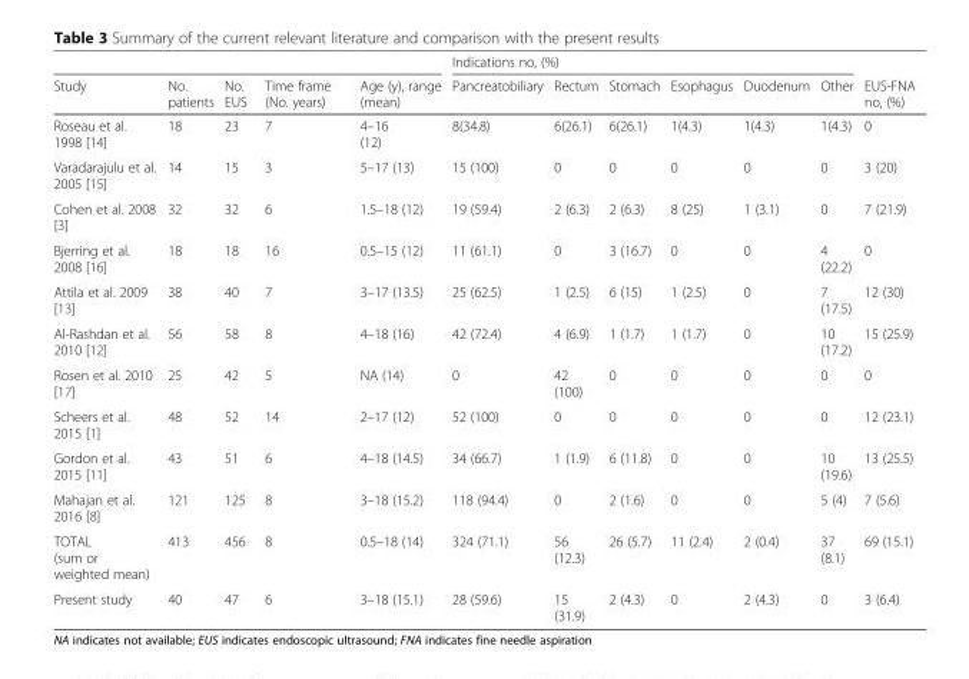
<table><thead><tr><td rowspan="2">Study</td><td rowspan="2">No. patients</td><td rowspan="2">No. EUS</td><td rowspan="2">Time frame (No. years)</td><td rowspan="2">Age (y), range (mean)</td><td colspan="6">Indications no, (%)</td><td rowspan="2">EUS-FNA no, (%)</td></tr><tr><td>Pancreatobiliary</td><td>Rectum</td><td>Stomach</td><td>Esophagus</td><td>Duodenum</td><td>Other</td></tr></thead><tbody><tr><td>Roseau et al. 1998 [14]</td><td>18</td><td>23</td><td>7</td><td>4–16 (12)</td><td>8(34.8)</td><td>6(26.1)</td><td>6(26.1)</td><td>1(4.3)</td><td>1(4.3)</td><td>1(4.3)</td><td>0</td></tr><tr><td>Varadarajulu et al. 2005 [15]</td><td>14</td><td>15</td><td>3</td><td>5–17 (13)</td><td>15 (100)</td><td>0</td><td>0</td><td>0</td><td>0</td><td>0</td><td>3 (20)</td></tr><tr><td>Cohen et al. 2008 [3]</td><td>32</td><td>32</td><td>6</td><td>1.5–18 (12)</td><td>19 (59.4)</td><td>2 (6.3)</td><td>2 (6.3)</td><td>8 (25)</td><td>1 (3.1)</td><td>0</td><td>7 (21.9)</td></tr><tr><td>Bjerring et al. 2008 [16]</td><td>18</td><td>18</td><td>16</td><td>0.5–15 (12)</td><td>11 (61.1)</td><td>0</td><td>3 (16.7)</td><td>0</td><td>0</td><td>4 (22.2)</td><td>0</td></tr><tr><td>Attila et al. 2009 [13]</td><td>38</td><td>40</td><td>7</td><td>3–17 (13.5)</td><td>25 (62.5)</td><td>1 (2.5)</td><td>6 (15)</td><td>1 (2.5)</td><td>0</td><td>7 (17.5)</td><td>12 (30)</td></tr><tr><td>Al-Rashdan et al. 2010 [12]</td><td>56</td><td>58</td><td>8</td><td>4–18 (16)</td><td>42 (72.4)</td><td>4 (6.9)</td><td>1 (1.7)</td><td>1 (1.7)</td><td>0</td><td>10 (17.2)</td><td>15 (25.9)</td></tr><tr><td>Rosen et al. 2010 [17]</td><td>25</td><td>42</td><td>5</td><td>NA (14)</td><td>0</td><td>42 (100)</td><td>0</td><td>0</td><td>0</td><td>0</td><td>0</td></tr><tr><td>Scheers et al. 2015 [1]</td><td>48</td><td>52</td><td>14</td><td>2–17 (12)</td><td>52 (100)</td><td>0</td><td>0</td><td>0</td><td>0</td><td>0</td><td>12 (23.1)</td></tr><tr><td>Gordon et al. 2015 [11]</td><td>43</td><td>51</td><td>6</td><td>4–18 (14.5)</td><td>34 (66.7)</td><td>1 (1.9)</td><td>6 (11.8)</td><td>0</td><td>0</td><td>10 (19.6)</td><td>13 (25.5)</td></tr><tr><td>Mahajan et al. 2016 [8]</td><td>121</td><td>125</td><td>8</td><td>3–18 (15.2)</td><td>118 (94.4)</td><td>0</td><td>2 (1.6)</td><td>0</td><td>0</td><td>5 (4)</td><td>7 (5.6)</td></tr><tr><td>TOTAL (sum or weighted mean)</td><td>413</td><td>456</td><td>8</td><td>0.5–18 (14)</td><td>324 (71.1)</td><td>56 (12.3)</td><td>26 (5.7)</td><td>11 (2.4)</td><td>2 (0.4)</td><td>37 (8.1)</td><td>69 (15.1)</td></tr><tr><td>Present study</td><td>40</td><td>47</td><td>6</td><td>3–18 (15.1)</td><td>28 (59.6)</td><td>15 (31.9)</td><td>2 (4.3)</td><td>0</td><td>2 (4.3)</td><td>0</td><td>3 (6.4)</td></tr></tbody></table>